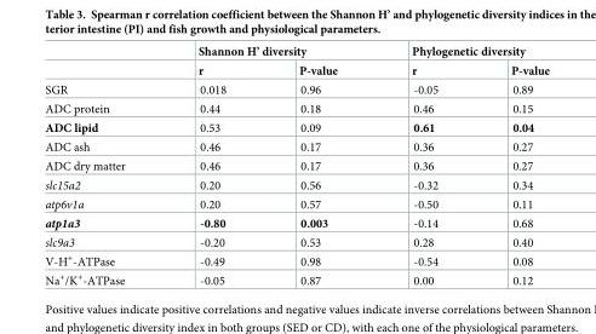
<table><thead><tr><td rowspan="2"></td><td colspan="2">Shannon H’ diversity</td><td colspan="2">Phylogenetic diversity</td></tr><tr><td>r</td><td>P-value</td><td>r</td><td>P-value</td></tr></thead><tbody><tr><td>SGR</td><td>0.018</td><td>0.96</td><td>-0.05</td><td>0.89</td></tr><tr><td>ADC protein</td><td>0.44</td><td>0.18</td><td>0.46</td><td>0.15</td></tr><tr><td>ADC lipid</td><td>0.53</td><td>0.09</td><td>0.61</td><td>0.04</td></tr><tr><td>ADC ash</td><td>0.46</td><td>0.17</td><td>0.36</td><td>0.27</td></tr><tr><td>ADC dry matter</td><td>0.46</td><td>0.17</td><td>0.36</td><td>0.27</td></tr><tr><td>slc15a2</td><td>0.20</td><td>0.56</td><td>-0.32</td><td>0.34</td></tr><tr><td>atp6v1a</td><td>0.20</td><td>0.57</td><td>-0.50</td><td>0.11</td></tr><tr><td>atp1a3</td><td>-0.80</td><td>0.003</td><td>-0.14</td><td>0.68</td></tr><tr><td>slc9a3</td><td>-0.20</td><td>0.53</td><td>0.28</td><td>0.40</td></tr><tr><td>V-H<sup>+</sup>-ATPase</td><td>-0.49</td><td>0.98</td><td>-0.54</td><td>0.08</td></tr><tr><td>Na<sup>+</sup>/K<sup>+</sup>-ATPase</td><td>-0.05</td><td>0.87</td><td>0.00</td><td>0.12</td></tr></tbody></table>